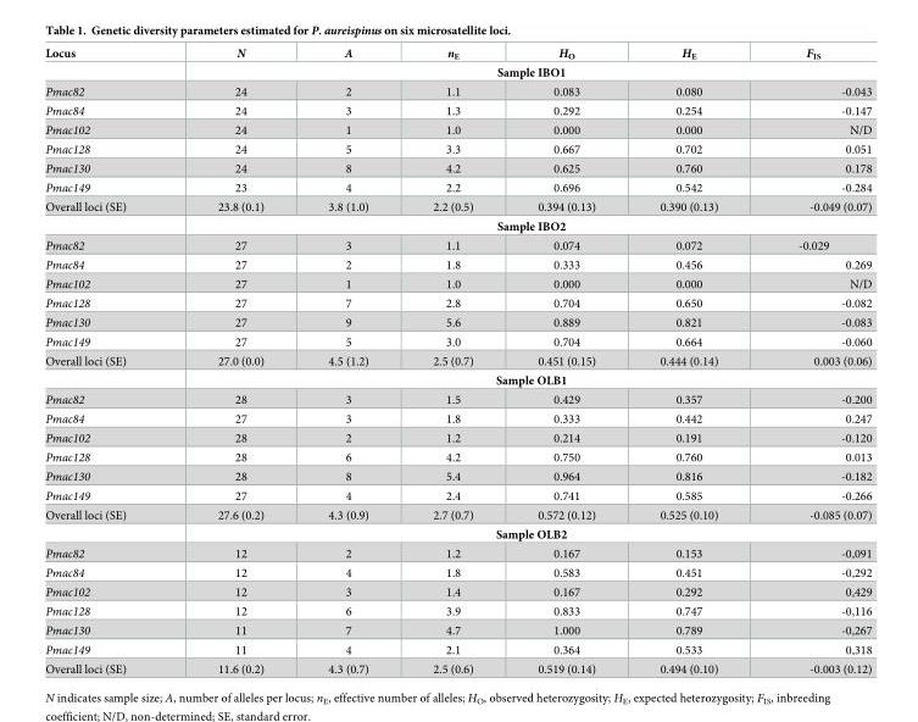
<table><thead><tr><td>Locus</td><td>N</td><td>A</td><td>n<sub>E</sub></td><td>H<sub>O</sub></td><td>H<sub>E</sub></td><td>F<sub>IS</sub></td></tr></thead><tbody><tr><td></td><td colspan="6">Sample IBO1</td></tr><tr><td>Pmac82</td><td>24</td><td>2</td><td>1.1</td><td>0.083</td><td>0.080</td><td>-0.043</td></tr><tr><td>Pmac84</td><td>24</td><td>3</td><td>1.3</td><td>0.292</td><td>0.254</td><td>-0.147</td></tr><tr><td>Pmac102</td><td>24</td><td>1</td><td>1.0</td><td>0.000</td><td>0.000</td><td>N/D</td></tr><tr><td>Pmac128</td><td>24</td><td>5</td><td>3.3</td><td>0.667</td><td>0.702</td><td>0.051</td></tr><tr><td>Pmac130</td><td>24</td><td>8</td><td>4.2</td><td>0.625</td><td>0.760</td><td>0.178</td></tr><tr><td>Pmac149</td><td>23</td><td>4</td><td>2.2</td><td>0.696</td><td>0.542</td><td>-0.284</td></tr><tr><td rowspan="2">Overall loci (SE)</td><td>23.8 (0.1)</td><td>3.8 (1.0)</td><td>2.2 (0.5)</td><td>0.394 (0.13)</td><td>0.390 (0.13)</td><td>-0.049 (0.07)</td></tr><tr><td colspan="6">Sample IBO2</td></tr><tr><td>Pmac82</td><td>27</td><td>3</td><td>1.1</td><td>0.074</td><td>0.072</td><td>-0.029</td></tr><tr><td>Pmac84</td><td>27</td><td>2</td><td>1.8</td><td>0.333</td><td>0.456</td><td>0.269</td></tr><tr><td>Pmac102</td><td>27</td><td>1</td><td>1.0</td><td>0.000</td><td>0.000</td><td>N/D</td></tr><tr><td>Pmac128</td><td>27</td><td>7</td><td>2.8</td><td>0.704</td><td>0.650</td><td>-0.082</td></tr><tr><td>Pmac130</td><td>27</td><td>9</td><td>5.6</td><td>0.889</td><td>0.821</td><td>-0.083</td></tr><tr><td>Pmac149</td><td>27</td><td>5</td><td>3.0</td><td>0.704</td><td>0.664</td><td>-0.060</td></tr><tr><td rowspan="2">Overall loci (SE)</td><td>27.0 (0.0)</td><td>4.5 (1.2)</td><td>2.5 (0.7)</td><td>0.451 (0.15)</td><td>0.444 (0.14)</td><td>0.003 (0.06)</td></tr><tr><td colspan="6">Sample OLB1</td></tr><tr><td>Pmac82</td><td>28</td><td>3</td><td>1.5</td><td>0.429</td><td>0.357</td><td>-0.200</td></tr><tr><td>Pmac84</td><td>27</td><td>3</td><td>1.8</td><td>0.333</td><td>0.442</td><td>0.247</td></tr><tr><td>Pmac102</td><td>28</td><td>2</td><td>1.2</td><td>0.214</td><td>0.191</td><td>-0.120</td></tr><tr><td>Pmac128</td><td>28</td><td>6</td><td>4.2</td><td>0.750</td><td>0.760</td><td>0.013</td></tr><tr><td>Pmac130</td><td>28</td><td>8</td><td>5.4</td><td>0.964</td><td>0.816</td><td>-0.182</td></tr><tr><td>Pmac149</td><td>27</td><td>4</td><td>2.4</td><td>0.741</td><td>0.585</td><td>-0.266</td></tr><tr><td rowspan="2">Overall loci (SE)</td><td>27.6 (0.2)</td><td>4.3 (0.9)</td><td>2.7 (0.7)</td><td>0.572 (0.12)</td><td>0.525 (0.10)</td><td>-0.085 (0.07)</td></tr><tr><td colspan="6">Sample OLB2</td></tr><tr><td>Pmac82</td><td>12</td><td>2</td><td>1.2</td><td>0.167</td><td>0.153</td><td>-0,091</td></tr><tr><td>Pmac84</td><td>12</td><td>4</td><td>1.8</td><td>0.583</td><td>0.451</td><td>-0,292</td></tr><tr><td>Pmac102</td><td>12</td><td>3</td><td>1.4</td><td>0.167</td><td>0.292</td><td>0,429</td></tr><tr><td>Pmac128</td><td>12</td><td>6</td><td>3.9</td><td>0.833</td><td>0.747</td><td>-0,116</td></tr><tr><td>Pmac130</td><td>11</td><td>7</td><td>4.7</td><td>1.000</td><td>0.789</td><td>-0,267</td></tr><tr><td>Pmac149</td><td>11</td><td>4</td><td>2.1</td><td>0.364</td><td>0.533</td><td>0,318</td></tr><tr><td>Overall loci (SE)</td><td>11.6 (0.2)</td><td>4.3 (0.7)</td><td>2.5 (0.6)</td><td>0.519 (0.14)</td><td>0.494 (0.10)</td><td>-0.003 (0.12)</td></tr></tbody></table>